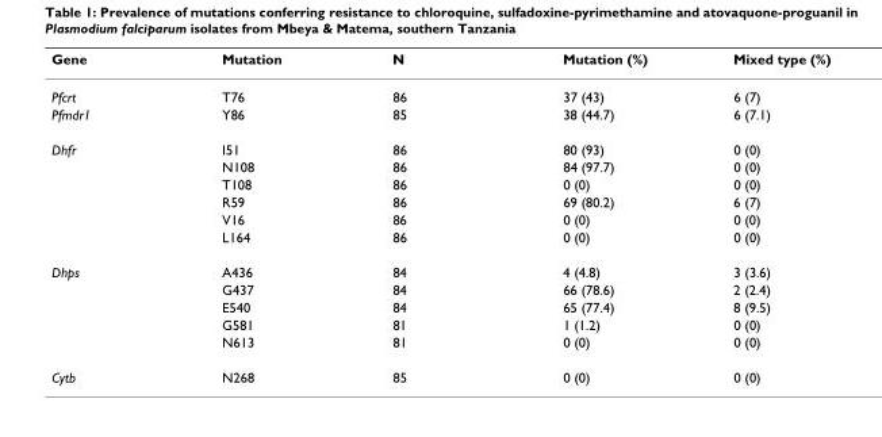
<table><thead><tr><td>Gene</td><td>Mutation</td><td>N</td><td>Mutation (%)</td><td>Mixed type (%)</td></tr></thead><tbody><tr><td>Pfcrt</td><td>T76</td><td>86</td><td>37 (43)</td><td>6 (7)</td></tr><tr><td>Pfmdr1</td><td>Y86</td><td>85</td><td>38 (44.7)</td><td>6 (7.1)</td></tr><tr><td rowspan="6">Dhfr</td><td>I51</td><td>86</td><td>80 (93)</td><td>0 (0)</td></tr><tr><td>N108</td><td>86</td><td>84 (97.7)</td><td>0 (0)</td></tr><tr><td>T108</td><td>86</td><td>0 (0)</td><td>0 (0)</td></tr><tr><td>R59</td><td>86</td><td>69 (80.2)</td><td>6 (7)</td></tr><tr><td>V16</td><td>86</td><td>0 (0)</td><td>0 (0)</td></tr><tr><td>L164</td><td>86</td><td>0 (0)</td><td>0 (0)</td></tr><tr><td rowspan="5">Dhps</td><td>A436</td><td>84</td><td>4 (4.8)</td><td>3 (3.6)</td></tr><tr><td>G437</td><td>84</td><td>66 (78.6)</td><td>2 (2.4)</td></tr><tr><td>E540</td><td>84</td><td>65 (77.4)</td><td>8 (9.5)</td></tr><tr><td>G581</td><td>81</td><td>1 (1.2)</td><td>0 (0)</td></tr><tr><td>N613</td><td>81</td><td>0 (0)</td><td>0 (0)</td></tr><tr><td>Cytb</td><td>N268</td><td>85</td><td>0 (0)</td><td>0 (0)</td></tr></tbody></table>